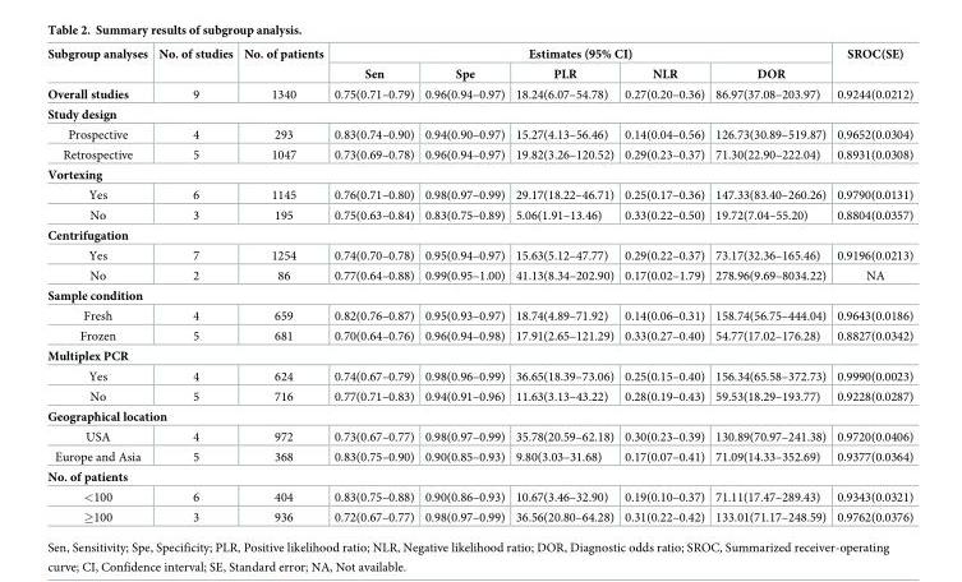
<table><thead><tr><td rowspan="2">Subgroup analyses</td><td rowspan="2">No. of studies</td><td rowspan="2">No. of patients</td><td colspan="5">Estimates (95% CI)</td><td rowspan="2">SROC(SE)</td></tr><tr><td>Sen</td><td>Spe</td><td>PLR</td><td>NLR</td><td>DOR</td></tr></thead><tbody><tr><td>Overall studies</td><td>9</td><td>1340</td><td>0.75(0.71–0.79)</td><td>0.96(0.94–0.97)</td><td>18.24(6.07–54.78)</td><td>0.27(0.20–0.36)</td><td>86.97(37.08–203.97)</td><td>0.9244(0.0212)</td></tr><tr><td colspan="9">Study design</td></tr><tr><td>Prospective</td><td>4</td><td>293</td><td>0.83(0.74–0.90)</td><td>0.94(0.90–0.97)</td><td>15.27(4.13–56.46)</td><td>0.14(0.04–0.56)</td><td>126.73(30.89–519.87)</td><td>0.9652(0.0304)</td></tr><tr><td>Retrospective</td><td>5</td><td>1047</td><td>0.73(0.69–0.78)</td><td>0.96(0.94–0.97)</td><td>19.82(3.26–120.52)</td><td>0.29(0.23–0.37)</td><td>71.30(22.90–222.04)</td><td>0.8931(0.0308)</td></tr><tr><td colspan="9">Vortexing</td></tr><tr><td>Yes</td><td>6</td><td>1145</td><td>0.76(0.71–0.80)</td><td>0.98(0.97–0.99)</td><td>29.17(18.22–46.71)</td><td>0.25(0.17–0.36)</td><td>147.33(83.40–260.26)</td><td>0.9790(0.0131)</td></tr><tr><td>No</td><td>3</td><td>195</td><td>0.75(0.63–0.84)</td><td>0.83(0.75–0.89)</td><td>5.06(1.91–13.46)</td><td>0.33(0.22–0.50)</td><td>19.72(7.04–55.20)</td><td>0.8804(0.0357)</td></tr><tr><td colspan="9">Centrifugation</td></tr><tr><td>Yes</td><td>7</td><td>1254</td><td>0.74(0.70–0.78)</td><td>0.95(0.94–0.97)</td><td>15.63(5.12–47.77)</td><td>0.29(0.22–0.37)</td><td>73.17(32.36–165.46)</td><td>0.9196(0.0213)</td></tr><tr><td>No</td><td>2</td><td>86</td><td>0.77(0.64–0.88)</td><td>0.99(0.95–1.00)</td><td>41.13(8.34–202.90)</td><td>0.17(0.02–1.79)</td><td>278.96(9.69–8034.22)</td><td>NA</td></tr><tr><td colspan="9">Sample condition</td></tr><tr><td>Fresh</td><td>4</td><td>659</td><td>0.82(0.76–0.87)</td><td>0.95(0.93–0.97)</td><td>18.74(4.89–71.92)</td><td>0.14(0.06–0.31)</td><td>158.74(56.75–444.04)</td><td>0.9643(0.0186)</td></tr><tr><td>Frozen</td><td>5</td><td>681</td><td>0.70(0.64–0.76)</td><td>0.96(0.94–0.98)</td><td>17.91(2.65–121.29)</td><td>0.33(0.27–0.40)</td><td>54.77(17.02–176.28)</td><td>0.8827(0.0342)</td></tr><tr><td colspan="9">Multiplex PCR</td></tr><tr><td>Yes</td><td>4</td><td>624</td><td>0.74(0.67–0.79)</td><td>0.98(0.96–0.99)</td><td>36.65(18.39–73.06)</td><td>0.25(0.15–0.40)</td><td>156.34(65.58–372.73)</td><td>0.9990(0.0023)</td></tr><tr><td>No</td><td>5</td><td>716</td><td>0.77(0.71–0.83)</td><td>0.94(0.91–0.96)</td><td>11.63(3.13–43.22)</td><td>0.28(0.19–0.43)</td><td>59.53(18.29–193.77)</td><td>0.9228(0.0287)</td></tr><tr><td colspan="9">Geographical location</td></tr><tr><td>USA</td><td>4</td><td>972</td><td>0.73(0.67–0.77)</td><td>0.98(0.97–0.99)</td><td>35.78(20.59–62.18)</td><td>0.30(0.23–0.39)</td><td>130.89(70.97–241.38)</td><td>0.9720(0.0406)</td></tr><tr><td>Europe and Asia</td><td>5</td><td>368</td><td>0.83(0.75–0.90)</td><td>0.90(0.85–0.93)</td><td>9.80(3.03–31.68)</td><td>0.17(0.07–0.41)</td><td>71.09(14.33–352.69)</td><td>0.9377(0.0364)</td></tr><tr><td colspan="9">No. of patients</td></tr><tr><td>&lt;100</td><td>6</td><td>404</td><td>0.83(0.75–0.88)</td><td>0.90(0.86–0.93)</td><td>10.67(3.46–32.90)</td><td>0.19(0.10–0.37)</td><td>71.11(17.47–289.43)</td><td>0.9343(0.0321)</td></tr><tr><td>≥100</td><td>3</td><td>936</td><td>0.72(0.67–0.77)</td><td>0.98(0.97–0.99)</td><td>36.56(20.80–64.28)</td><td>0.31(0.22–0.42)</td><td>133.01(71.17–248.59)</td><td>0.9762(0.0376)</td></tr></tbody></table>